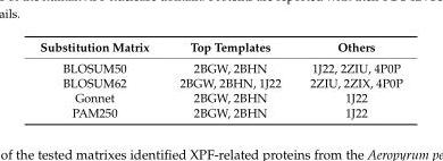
<table><thead><tr><td>Substitution Matrix</td><td>Top Templates</td><td>Others</td></tr></thead><tbody><tr><td>BLOSUM50</td><td>2BGW, 2BHN</td><td>1J22, 2ZIU, 4P0P</td></tr><tr><td>BLOSUM62</td><td>2BGW, 2BHN, 1J22</td><td>2ZIU, 2ZIX, 4P0P</td></tr><tr><td>Gonnet</td><td>2BGW, 2BHN</td><td>1J22</td></tr><tr><td>PAM250</td><td>2BGW, 2BHN</td><td>1J22</td></tr></tbody></table>